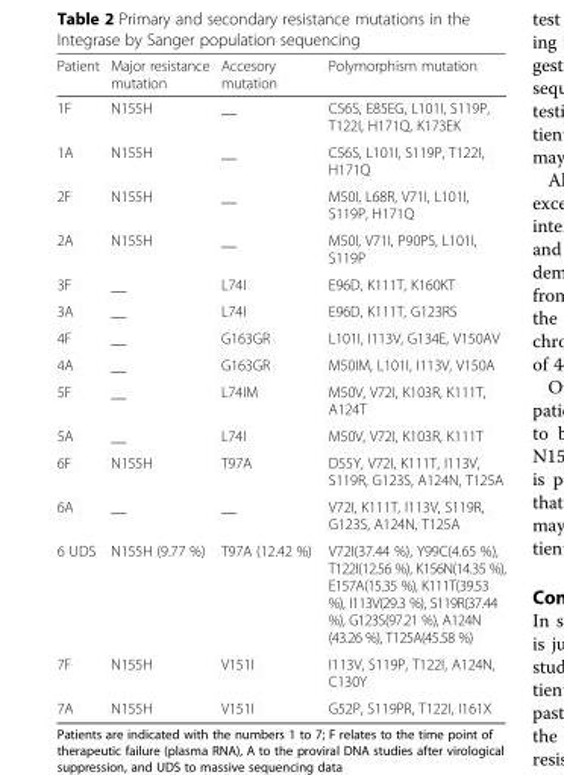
<table><thead><tr><td>Patient</td><td>Major resistance mutation</td><td>Accesory mutation</td><td>Polymorphism mutation</td></tr></thead><tbody><tr><td>1F</td><td>N155H</td><td>__</td><td>C56S, E85EG, L101I, S119P, T122I, H171Q, K173EK</td></tr><tr><td>1A</td><td>N155H</td><td>__</td><td>C56S, L101I, S119P, T122I, H171Q</td></tr><tr><td>2F</td><td>N155H</td><td>__</td><td>M50I, L68R, V71I, L101I, S119P, H171Q</td></tr><tr><td>2A</td><td>N155H</td><td>__</td><td>M50I, V71I, P90PS, L101I, S119P</td></tr><tr><td>3F</td><td>__</td><td>L74I</td><td>E96D, K111T, K160KT</td></tr><tr><td>3A</td><td>__</td><td>L74I</td><td>E96D, K111T, G123RS</td></tr><tr><td>4F</td><td>__</td><td>G163GR</td><td>L101I, I113V, G134E, V150AV</td></tr><tr><td>4A</td><td>__</td><td>G163GR</td><td>M50IM, L101I, I113V, V150A</td></tr><tr><td>5F</td><td>__</td><td>L74IM</td><td>M50V, V72I, K103R, K111T, A124T</td></tr><tr><td>5A</td><td>__</td><td>L74I</td><td>M50V, V72I, K103R, K111T</td></tr><tr><td>6F</td><td>N155H</td><td>T97A</td><td>D55Y, V72I, K111T, I113V, S119R, G123S, A124N, T125A</td></tr><tr><td>6A</td><td>__</td><td>__</td><td>V72I, K111T, I113V, S119R, G123S, A124N, T125A</td></tr><tr><td>6 UDS</td><td>N155H (9.77 %)</td><td>T97A (12.42 %)</td><td>V72I(37.44 %), Y99C(4.65 %), T122I(12.56 %), K156N(14.35 %), E157A(15.35 %), K111T(39.53 %), I113V(29.3 %), S119R(37.44 %), G123S(97.21 %), A124N (43.26 %), T125A(45.58 %)</td></tr><tr><td>7F</td><td>N155H</td><td>V151I</td><td>I113V, S119P, T122I, A124N, C130Y</td></tr><tr><td>7A</td><td>N155H</td><td>V151I</td><td>G52P, S119PR, T122I, I161X</td></tr></tbody></table>